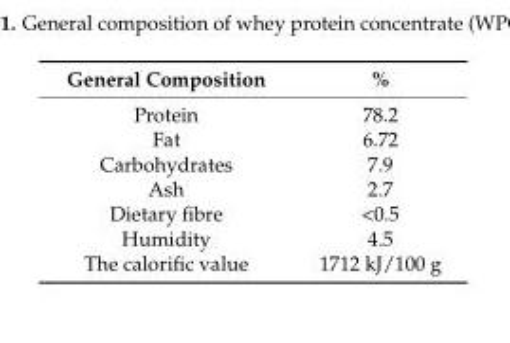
<table><thead><tr><td>General Composition</td><td>%</td></tr></thead><tbody><tr><td>Protein</td><td>78.2</td></tr><tr><td>Fat</td><td>6.72</td></tr><tr><td>Carbohydrates</td><td>7.9</td></tr><tr><td>Ash</td><td>2.7</td></tr><tr><td>Dietary fibre</td><td>&lt;0.5</td></tr><tr><td>Humidity</td><td>4.5</td></tr><tr><td>The calorific value</td><td>1712 kJ/100 g</td></tr></tbody></table>